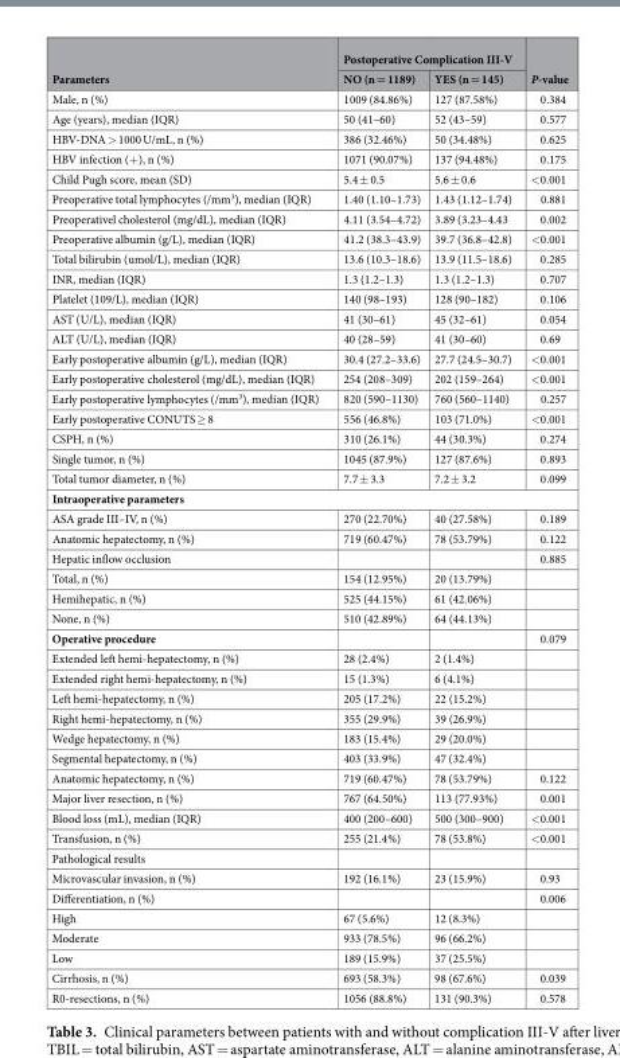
<table><thead><tr><td rowspan="2">Parameters</td><td colspan="2">Postoperative Complication III-V</td><td rowspan="2">P-value</td></tr><tr><td>NO (n = 1189)</td><td>YES (n = 145)</td></tr></thead><tbody><tr><td>Male, n (%)</td><td>1009 (84.86%)</td><td>127 (87.58%)</td><td>0.384</td></tr><tr><td>Age (years), median (IQR)</td><td>50 (41–60)</td><td>52 (43–59)</td><td>0.577</td></tr><tr><td>HBV-DNA &gt; 1000 U/mL, n (%)</td><td>386 (32.46%)</td><td>50 (34.48%)</td><td>0.625</td></tr><tr><td>HBV infection (+), n (%)</td><td>1071 (90.07%)</td><td>137 (94.48%)</td><td>0.175</td></tr><tr><td>Child Pugh score, mean (SD)</td><td>5.4 ± 0.5</td><td>5.6 ± 0.6</td><td>&lt;0.001</td></tr><tr><td>Preoperative total lymphocytes (/mm<sup>3</sup>), median (IQR)</td><td>1.40 (1.10–1.73)</td><td>1.43 (1.12–1.74)</td><td>0.881</td></tr><tr><td>Preoperativel cholesterol (mg/dL), median (IQR)</td><td>4.11 (3.54–4.72)</td><td>3.89 (3.23–4.43</td><td>0.002</td></tr><tr><td>Preoperative albumin (g/L), median (IQR)</td><td>41.2 (38.3–43.9)</td><td>39.7 (36.8–42.8)</td><td>&lt;0.001</td></tr><tr><td>Total bilirubin (umol/L), median (IQR)</td><td>13.6 (10.3–18.6)</td><td>13.9 (11.5–18.6)</td><td>0.285</td></tr><tr><td>INR, median (IQR)</td><td>1.3 (1.2–1.3)</td><td>1.3 (1.2–1.3)</td><td>0.707</td></tr><tr><td>Platelet (109/L), median (IQR)</td><td>140 (98–193)</td><td>128 (90–182)</td><td>0.106</td></tr><tr><td>AST (U/L), median (IQR)</td><td>41 (30–61)</td><td>45 (32–61)</td><td>0.054</td></tr><tr><td>ALT (U/L), median (IQR)</td><td>40 (28–59)</td><td>41 (30–60)</td><td>0.69</td></tr><tr><td>Early postoperative albumin (g/L), median (IQR)</td><td>30.4 (27.2–33.6)</td><td>27.7 (24.5–30.7)</td><td>&lt;0.001</td></tr><tr><td>Early postoperative cholesterol (mg/dL), median (IQR)</td><td>254 (208–309)</td><td>202 (159–264)</td><td>&lt;0.001</td></tr><tr><td>Early postoperative lymphocytes (/mm<sup>3</sup>), median (IQR)</td><td>820 (590–1130)</td><td>760 (560–1140)</td><td>0.257</td></tr><tr><td>Early postoperative CONUTS ≥ 8</td><td>556 (46.8%)</td><td>103 (71.0%)</td><td>&lt;0.001</td></tr><tr><td>CSPH, n (%)</td><td>310 (26.1%)</td><td>44 (30.3%)</td><td>0.274</td></tr><tr><td>Single tumor, n (%)</td><td>1045 (87.9%)</td><td>127 (87.6%)</td><td>0.893</td></tr><tr><td>Total tumor diameter, n (%)</td><td>7.7 ± 3.3</td><td>7.2 ± 3.2</td><td>0.099</td></tr><tr><td colspan="4">Intraoperative parameters</td></tr><tr><td>ASA grade III–IV, n (%)</td><td>270 (22.70%)</td><td>40 (27.58%)</td><td>0.189</td></tr><tr><td>Anatomic hepatectomy, n (%)</td><td>719 (60.47%)</td><td>78 (53.79%)</td><td>0.122</td></tr><tr><td>Hepatic inflow occlusion</td><td></td><td></td><td>0.885</td></tr><tr><td>Total, n (%)</td><td>154 (12.95%)</td><td>20 (13.79%)</td><td></td></tr><tr><td>Hemihepatic, n (%)</td><td>525 (44.15%)</td><td>61 (42.06%)</td><td></td></tr><tr><td>None, n (%)</td><td>510 (42.89%)</td><td>64 (44.13%)</td><td></td></tr><tr><td>Operative procedure</td><td></td><td></td><td>0.079</td></tr><tr><td>Extended left hemi-hepatectomy, n (%)</td><td>28 (2.4%)</td><td>2 (1.4%)</td><td></td></tr><tr><td>Extended right hemi-hepatectomy, n (%)</td><td>15 (1.3%)</td><td>6 (4.1%)</td><td></td></tr><tr><td>Left hemi-hepatectomy, n (%)</td><td>205 (17.2%)</td><td>22 (15.2%)</td><td></td></tr><tr><td>Right hemi-hepatectomy, n (%)</td><td>355 (29.9%)</td><td>39 (26.9%)</td><td></td></tr><tr><td>Wedge hepatectomy, n (%)</td><td>183 (15.4%)</td><td>29 (20.0%)</td><td></td></tr><tr><td>Segmental hepatectomy, n (%)</td><td>403 (33.9%)</td><td>47 (32.4%)</td><td></td></tr><tr><td>Anatomic hepatectomy, n (%)</td><td>719 (60.47%)</td><td>78 (53.79%)</td><td>0.122</td></tr><tr><td>Major liver resection, n (%)</td><td>767 (64.50%)</td><td>113 (77.93%)</td><td>0.001</td></tr><tr><td>Blood loss (mL), median (IQR)</td><td>400 (200–600)</td><td>500 (300–900)</td><td>&lt;0.001</td></tr><tr><td>Transfusion, n (%)</td><td>255 (21.4%)</td><td>78 (53.8%)</td><td>&lt;0.001</td></tr><tr><td colspan="4">Pathological results</td></tr><tr><td>Microvascular invasion, n (%)</td><td>192 (16.1%)</td><td>23 (15.9%)</td><td>0.93</td></tr><tr><td>Differentiation, n (%)</td><td></td><td></td><td>0.006</td></tr><tr><td>High</td><td>67 (5.6%)</td><td>12 (8.3%)</td><td></td></tr><tr><td>Moderate</td><td>933 (78.5%)</td><td>96 (66.2%)</td><td></td></tr><tr><td>Low</td><td>189 (15.9%)</td><td>37 (25.5%)</td><td></td></tr><tr><td>Cirrhosis, n (%)</td><td>693 (58.3%)</td><td>98 (67.6%)</td><td>0.039</td></tr><tr><td>R0-resections, n (%)</td><td>1056 (88.8%)</td><td>131 (90.3%)</td><td>0.578</td></tr></tbody></table>